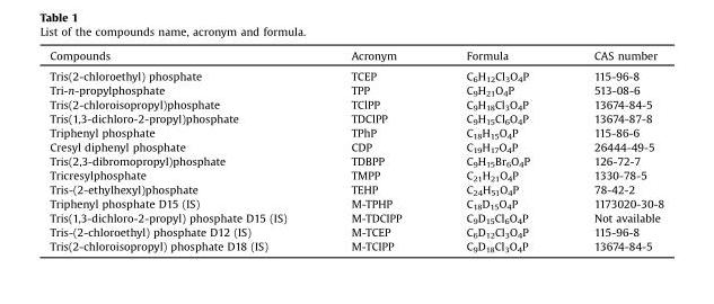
<table><thead><tr><td>Compounds</td><td>Acronym</td><td>Formula</td><td>CAS number</td></tr></thead><tbody><tr><td>Tris(2-chloroethyl) phosphate</td><td>TCEP</td><td>C<sub>6</sub>H<sub>12</sub>Cl<sub>3</sub>O<sub>4</sub>P</td><td>115-96-8</td></tr><tr><td>Tri-n-propylphosphate</td><td>TPP</td><td>C<sub>9</sub>H<sub>21</sub>O<sub>4</sub>P</td><td>513-08-6</td></tr><tr><td>Tris(2-chloroisopropyl)phosphate</td><td>TClPP</td><td>C<sub>9</sub>H<sub>18</sub>Cl<sub>3</sub>O<sub>4</sub>P</td><td>13674-84-5</td></tr><tr><td>Tris(1,3-dichloro-2-propyl)phosphate</td><td>TDClPP</td><td>C<sub>9</sub>H<sub>15</sub>Cl<sub>6</sub>O<sub>4</sub>P</td><td>13674-87-8</td></tr><tr><td>Triphenyl phosphate</td><td>TPhP</td><td>C<sub>18</sub>H<sub>15</sub>O<sub>4</sub>P</td><td>115-86-6</td></tr><tr><td>Cresyl diphenyl phosphate</td><td>CDP</td><td>C<sub>19</sub>H<sub>17</sub>O<sub>4</sub>P</td><td>26444-49-5</td></tr><tr><td>Tris(2,3-dibromopropyl)phosphate</td><td>TDBPP</td><td>C<sub>9</sub>H<sub>15</sub>Br<sub>6</sub>O<sub>4</sub>P</td><td>126-72-7</td></tr><tr><td>Tricresylphosphate</td><td>TMPP</td><td>C<sub>21</sub>H<sub>21</sub>O<sub>4</sub>P</td><td>1330-78-5</td></tr><tr><td>Tris-(2-ethylhexyl)phosphate</td><td>TEHP</td><td>C<sub>24</sub>H<sub>51</sub>O<sub>4</sub>P</td><td>78-42-2</td></tr><tr><td>Triphenyl phosphate D15 (IS)</td><td>M-TPHP</td><td>C<sub>18</sub>D<sub>15</sub>O<sub>4</sub>P</td><td>1173020-30-8</td></tr><tr><td>Tris(1,3-dichloro-2-propyl) phosphate D15 (IS)</td><td>M-TDCIPP</td><td>C<sub>9</sub>D<sub>15</sub>Cl<sub>6</sub>O<sub>4</sub>P</td><td>Not available</td></tr><tr><td>Tris-(2-chloroethyl) phosphate D12 (IS)</td><td>M-TCEP</td><td>C<sub>6</sub>D<sub>12</sub>Cl<sub>3</sub>O<sub>4</sub>P</td><td>115-96-8</td></tr><tr><td>Tris(2-chloroisopropyl) phosphate D18 (IS)</td><td>M-TCIPP</td><td>C<sub>9</sub>D<sub>18</sub>Cl<sub>3</sub>O<sub>4</sub>P</td><td>13674-84-5</td></tr></tbody></table>